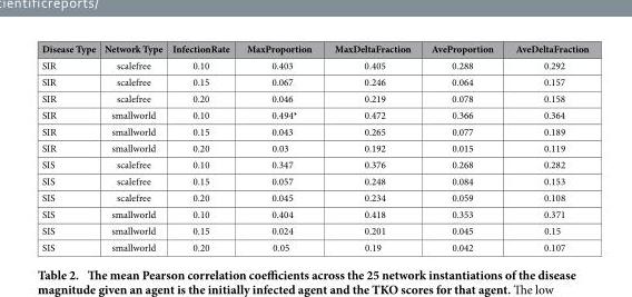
<table><thead><tr><td>Disease Type</td><td>Network Type</td><td>InfectionRate</td><td>MaxProportion</td><td>MaxDeltaFraction</td><td>AveProportion</td><td>AveDeltaFraction</td></tr></thead><tbody><tr><td>SIR</td><td>scalefree</td><td>0.10</td><td>0.403</td><td>0.405</td><td>0.288</td><td>0.292</td></tr><tr><td>SIR</td><td>scalefree</td><td>0.15</td><td>0.067</td><td>0.246</td><td>0.064</td><td>0.157</td></tr><tr><td>SIR</td><td>scalefree</td><td>0.20</td><td>0.046</td><td>0.219</td><td>0.078</td><td>0.158</td></tr><tr><td>SIR</td><td>smallworld</td><td>0.10</td><td>0.494*</td><td>0.472</td><td>0.366</td><td>0.364</td></tr><tr><td>SIR</td><td>smallworld</td><td>0.15</td><td>0.043</td><td>0.265</td><td>0.077</td><td>0.189</td></tr><tr><td>SIR</td><td>smallworld</td><td>0.20</td><td>0.03</td><td>0.192</td><td>0.015</td><td>0.119</td></tr><tr><td>SIS</td><td>scalefree</td><td>0.10</td><td>0.347</td><td>0.376</td><td>0.268</td><td>0.282</td></tr><tr><td>SIS</td><td>scalefree</td><td>0.15</td><td>0.057</td><td>0.248</td><td>0.084</td><td>0.153</td></tr><tr><td>SIS</td><td>scalefree</td><td>0.20</td><td>0.045</td><td>0.234</td><td>0.059</td><td>0.108</td></tr><tr><td>SIS</td><td>smallworld</td><td>0.10</td><td>0.404</td><td>0.418</td><td>0.353</td><td>0.371</td></tr><tr><td>SIS</td><td>smallworld</td><td>0.15</td><td>0.024</td><td>0.201</td><td>0.045</td><td>0.15</td></tr><tr><td>SIS</td><td>smallworld</td><td>0.20</td><td>0.05</td><td>0.19</td><td>0.042</td><td>0.107</td></tr></tbody></table>